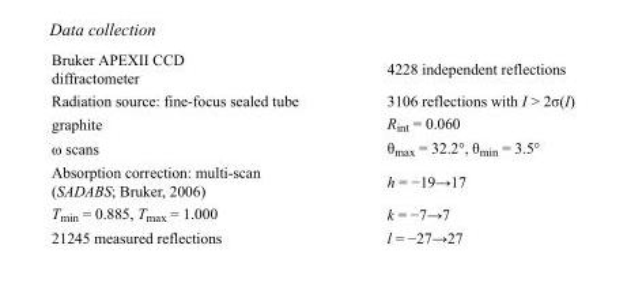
<table><tbody><tr><td>Bruker APEXII CCD diffractometer</td><td>4228 independent reflections</td></tr><tr><td>Radiation source: fine-focus sealed tube</td><td>3106 reflections with I &gt; 2σ(I)</td></tr><tr><td>graphite</td><td>R<sub>int</sub> = 0.060</td></tr><tr><td>ω scans</td><td>θ<sub>max</sub> = 32.2°, θ<sub>min</sub> = 3.5°</td></tr><tr><td>Absorption correction: multi-scan (SADABS; Bruker, 2006)</td><td>h = −19→17</td></tr><tr><td>T<sub>min</sub> = 0.885, T<sub>max</sub> = 1.000</td><td>k = −7→7</td></tr><tr><td>21245 measured reflections</td><td>l = −27→27</td></tr></tbody></table>